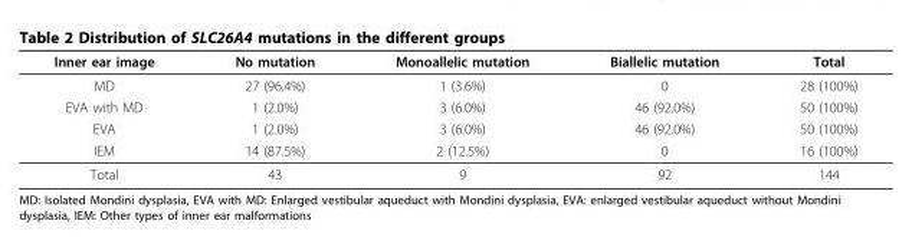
<table><thead><tr><td>Inner ear image</td><td>No mutation</td><td>Monoallelic mutation</td><td>Biallelic mutation</td><td>Total</td></tr></thead><tbody><tr><td>MD</td><td>27 (96.4%)</td><td>1 (3.6%)</td><td>0</td><td>28 (100%)</td></tr><tr><td>EVA with MD</td><td>1 (2.0%)</td><td>3 (6.0%)</td><td>46 (92.0%)</td><td>50 (100%)</td></tr><tr><td>EVA</td><td>1 (2.0%)</td><td>3 (6.0%)</td><td>46 (92.0%)</td><td>50 (100%)</td></tr><tr><td>IEM</td><td>14 (87.5%)</td><td>2 (12.5%)</td><td>0</td><td>16 (100%)</td></tr><tr><td>Total</td><td>43</td><td>9</td><td>92</td><td>144</td></tr></tbody></table>